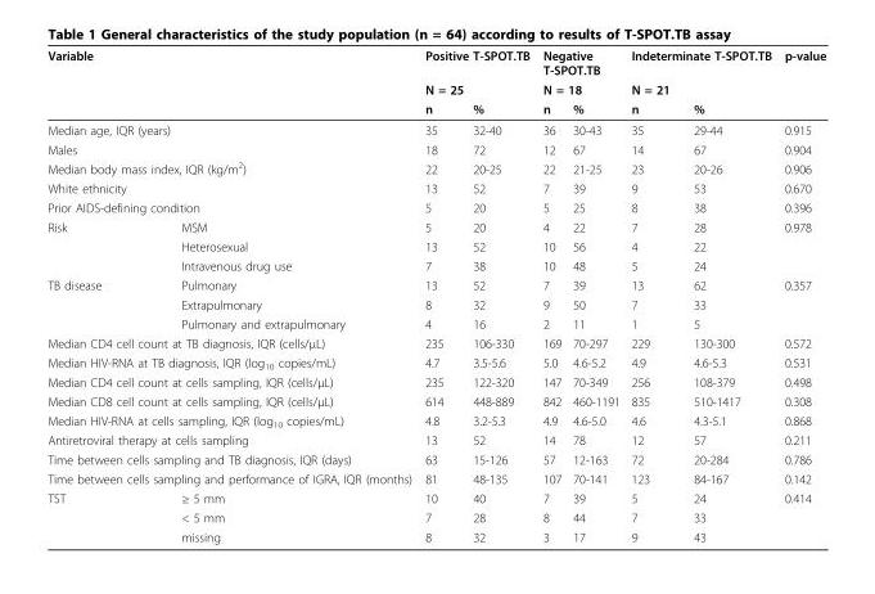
<table><thead><tr><td colspan="2">Variable</td><td rowspan="2" colspan="2">Positive T-SPOT.TB N = 25</td><td rowspan="2" colspan="2">Negative T-SPOT.TB N = 18</td><td rowspan="2" colspan="2">Indeterminate T-SPOT.TB N = 21</td><td rowspan="3">p-value</td></tr><tr><td rowspan="2"></td><td rowspan="2"></td></tr><tr><td>n</td><td>%</td><td>n</td><td>%</td><td>n</td><td>%</td></tr></thead><tbody><tr><td colspan="2">Median age, IQR (years)</td><td>35</td><td>32-40</td><td>36</td><td>30-43</td><td>35</td><td>29-44</td><td>0.915</td></tr><tr><td colspan="2">Males</td><td>18</td><td>72</td><td>12</td><td>67</td><td>14</td><td>67</td><td>0.904</td></tr><tr><td colspan="2">Median body mass index, IQR (kg/m<sup>2</sup>)</td><td>22</td><td>20-25</td><td>22</td><td>21-25</td><td>23</td><td>20-26</td><td>0.906</td></tr><tr><td colspan="2">White ethnicity</td><td>13</td><td>52</td><td>7</td><td>39</td><td>9</td><td>53</td><td>0.670</td></tr><tr><td colspan="2">Prior AIDS-defining condition</td><td>5</td><td>20</td><td>5</td><td>25</td><td>8</td><td>38</td><td>0.396</td></tr><tr><td rowspan="3">Risk</td><td>MSM</td><td>5</td><td>20</td><td>4</td><td>22</td><td>7</td><td>28</td><td>0.978</td></tr><tr><td>Heterosexual</td><td>13</td><td>52</td><td>10</td><td>56</td><td>4</td><td>22</td><td></td></tr><tr><td>Intravenous drug use</td><td>7</td><td>38</td><td>10</td><td>48</td><td>5</td><td>24</td><td></td></tr><tr><td rowspan="3">TB disease</td><td>Pulmonary</td><td>13</td><td>52</td><td>7</td><td>39</td><td>13</td><td>62</td><td>0.357</td></tr><tr><td>Extrapulmonary</td><td>8</td><td>32</td><td>9</td><td>50</td><td>7</td><td>33</td><td></td></tr><tr><td>Pulmonary and extrapulmonary</td><td>4</td><td>16</td><td>2</td><td>11</td><td>1</td><td>5</td><td></td></tr><tr><td colspan="2">Median CD4 cell count at TB diagnosis, IQR (cells/μL)</td><td>235</td><td>106-330</td><td>169</td><td>70-297</td><td>229</td><td>130-300</td><td>0.572</td></tr><tr><td colspan="2">Median HIV-RNA at TB diagnosis, IQR (log<sub>10</sub> copies/mL)</td><td>4.7</td><td>3.5-5.6</td><td>5.0</td><td>4.6-5.2</td><td>4.9</td><td>4.6-5.3</td><td>0.531</td></tr><tr><td colspan="2">Median CD4 cell count at cells sampling, IQR (cells/μL)</td><td>235</td><td>122-320</td><td>147</td><td>70-349</td><td>256</td><td>108-379</td><td>0.498</td></tr><tr><td colspan="2">Median CD8 cell count at cells sampling, IQR (cells/μL)</td><td>614</td><td>448-889</td><td>842</td><td>460-1191</td><td>835</td><td>510-1417</td><td>0.308</td></tr><tr><td colspan="2">Median HIV-RNA at cells sampling, IQR (log<sub>10</sub> copies/mL)</td><td>4.8</td><td>3.2-5.3</td><td>4.9</td><td>4.6-5.0</td><td>4.6</td><td>4.3-5.1</td><td>0.868</td></tr><tr><td colspan="2">Antiretroviral therapy at cells sampling</td><td>13</td><td>52</td><td>14</td><td>78</td><td>12</td><td>57</td><td>0.211</td></tr><tr><td colspan="2">Time between cells sampling and TB diagnosis, IQR (days)</td><td>63</td><td>15-126</td><td>57</td><td>12-163</td><td>72</td><td>20-284</td><td>0.786</td></tr><tr><td colspan="2">Time between cells sampling and performance of IGRA, IQR (months)</td><td>81</td><td>48-135</td><td>107</td><td>70-141</td><td>123</td><td>84-167</td><td>0.142</td></tr><tr><td rowspan="3">TST</td><td>≥ 5 mm</td><td>10</td><td>40</td><td>7</td><td>39</td><td>5</td><td>24</td><td>0.414</td></tr><tr><td>&lt; 5 mm</td><td>7</td><td>28</td><td>8</td><td>44</td><td>7</td><td>33</td><td></td></tr><tr><td>missing</td><td>8</td><td>32</td><td>3</td><td>17</td><td>9</td><td>43</td><td></td></tr></tbody></table>